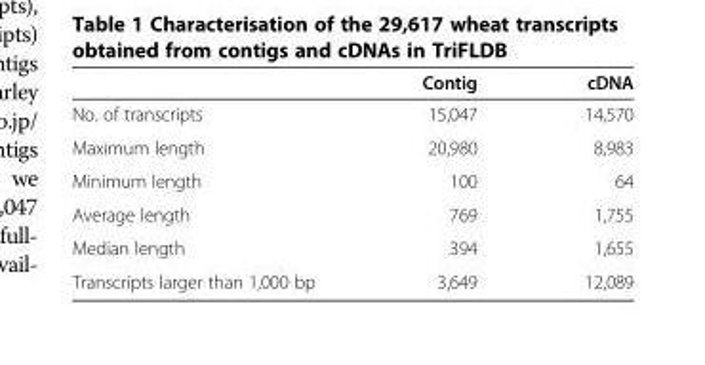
<table><thead><tr><td></td><td>Contig</td><td>cDNA</td></tr></thead><tbody><tr><td>No. of transcripts</td><td>15,047</td><td>14,570</td></tr><tr><td>Maximum length</td><td>20,980</td><td>8,983</td></tr><tr><td>Minimum length</td><td>100</td><td>64</td></tr><tr><td>Average length</td><td>769</td><td>1,755</td></tr><tr><td>Median length</td><td>394</td><td>1,655</td></tr><tr><td>Transcripts larger than 1,000 bp</td><td>3,649</td><td>12,089</td></tr></tbody></table>